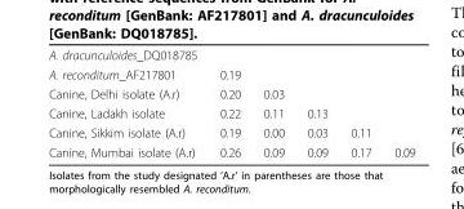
<table><tbody><tr><td colspan="6">A. dracunculoides_DQ018785</td></tr><tr><td>A. reconditum_AF217801</td><td>0.19</td><td></td><td></td><td></td><td></td></tr><tr><td>Canine, Delhi isolate (A.r)</td><td>0.20</td><td>0.03</td><td></td><td></td><td></td></tr><tr><td>Canine, Ladakh isolate</td><td>0.22</td><td>0.11</td><td>0.13</td><td></td><td></td></tr><tr><td>Canine, Sikkim isolate (A.r)</td><td>0.19</td><td>0.00</td><td>0.03</td><td>0.11</td><td></td></tr><tr><td>Canine, Mumbai isolate (A.r)</td><td>0.26</td><td>0.09</td><td>0.09</td><td>0.17</td><td>0.09</td></tr></tbody></table>